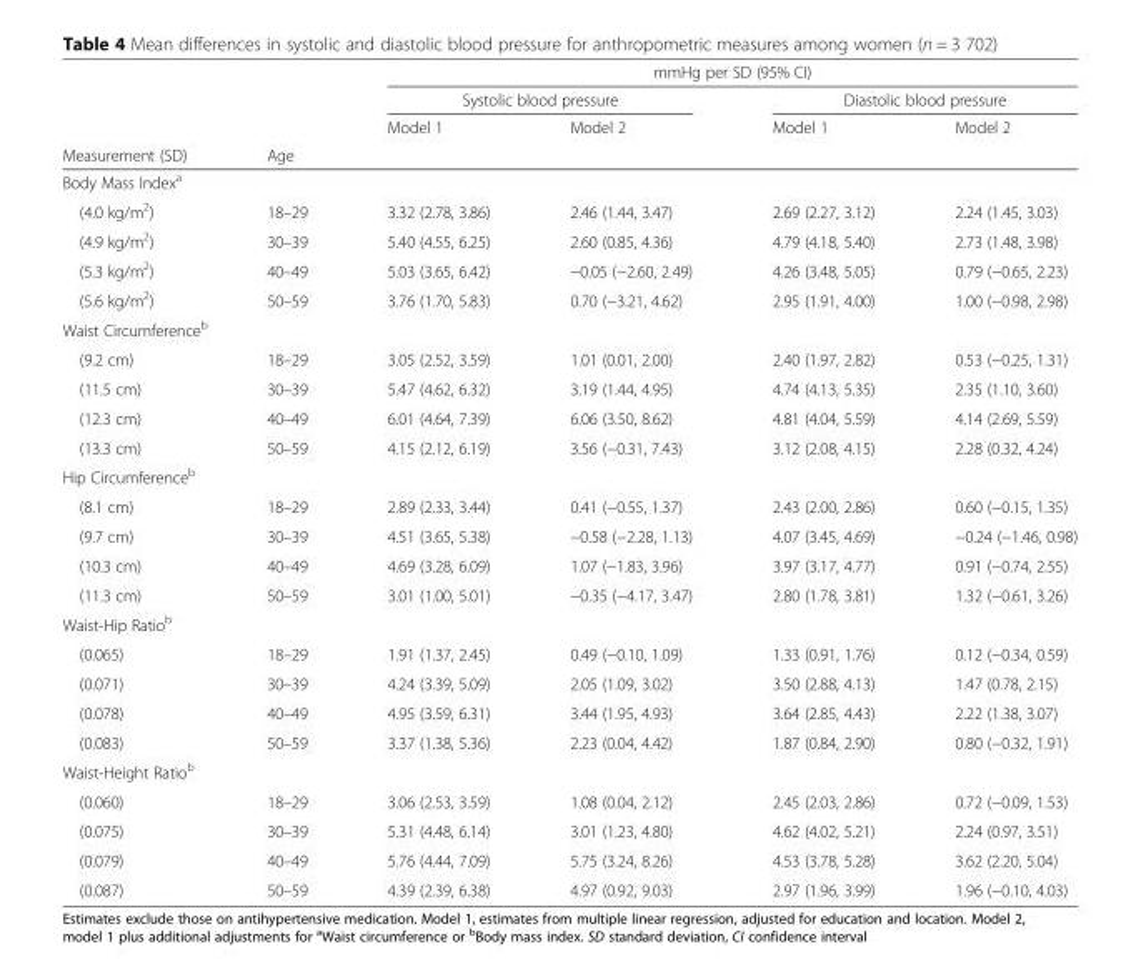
<table><thead><tr><td rowspan="4">Measurement (SD)</td><td rowspan="4">Age</td><td colspan="4">mmHg per SD (95% CI)</td></tr><tr><td colspan="2">Systolic blood pressure</td><td colspan="2">Diastolic blood pressure</td></tr><tr><td rowspan="2">Model 1</td><td rowspan="2">Model 2</td><td rowspan="2">Model 1</td><td rowspan="2">Model 2</td></tr><tr></tr></thead><tbody><tr><td colspan="6">Body Mass Index<sup>a</sup></td></tr><tr><td>(4.0 kg/m<sup>2</sup>)</td><td>18–29</td><td>3.32 (2.78, 3.86)</td><td>2.46 (1.44, 3.47)</td><td>2.69 (2.27, 3.12)</td><td>2.24 (1.45, 3.03)</td></tr><tr><td>(4.9 kg/m<sup>2</sup>)</td><td>30–39</td><td>5.40 (4.55, 6.25)</td><td>2.60 (0.85, 4.36)</td><td>4.79 (4.18, 5.40)</td><td>2.73 (1.48, 3.98)</td></tr><tr><td>(5.3 kg/m<sup>2</sup>)</td><td>40–49</td><td>5.03 (3.65, 6.42)</td><td>−0.05 (−2.60, 2.49)</td><td>4.26 (3.48, 5.05)</td><td>0.79 (−0.65, 2.23)</td></tr><tr><td>(5.6 kg/m<sup>2</sup>)</td><td>50–59</td><td>3.76 (1.70, 5.83)</td><td>0.70 (−3.21, 4.62)</td><td>2.95 (1.91, 4.00)</td><td>1.00 (−0.98, 2.98)</td></tr><tr><td colspan="6">Waist Circumference<sup>b</sup></td></tr><tr><td>(9.2 cm)</td><td>18–29</td><td>3.05 (2.52, 3.59)</td><td>1.01 (0.01, 2.00)</td><td>2.40 (1.97, 2.82)</td><td>0.53 (−0.25, 1.31)</td></tr><tr><td>(11.5 cm)</td><td>30–39</td><td>5.47 (4.62, 6.32)</td><td>3.19 (1.44, 4.95)</td><td>4.74 (4.13, 5.35)</td><td>2.35 (1.10, 3.60)</td></tr><tr><td>(12.3 cm)</td><td>40–49</td><td>6.01 (4.64, 7.39)</td><td>6.06 (3.50, 8.62)</td><td>4.81 (4.04, 5.59)</td><td>4.14 (2.69, 5.59)</td></tr><tr><td>(13.3 cm)</td><td>50–59</td><td>4.15 (2.12, 6.19)</td><td>3.56 (−0.31, 7.43)</td><td>3.12 (2.08, 4.15)</td><td>2.28 (0.32, 4.24)</td></tr><tr><td colspan="6">Hip Circumference<sup>b</sup></td></tr><tr><td>(8.1 cm)</td><td>18–29</td><td>2.89 (2.33, 3.44)</td><td>0.41 (−0.55, 1.37)</td><td>2.43 (2.00, 2.86)</td><td>0.60 (−0.15, 1.35)</td></tr><tr><td>(9.7 cm)</td><td>30–39</td><td>4.51 (3.65, 5.38)</td><td>−0.58 (−2.28, 1.13)</td><td>4.07 (3.45, 4.69)</td><td>−0.24 (−1.46, 0.98)</td></tr><tr><td>(10.3 cm)</td><td>40–49</td><td>4.69 (3.28, 6.09)</td><td>1.07 (−1.83, 3.96)</td><td>3.97 (3.17, 4.77)</td><td>0.91 (−0.74, 2.55)</td></tr><tr><td>(11.3 cm)</td><td>50–59</td><td>3.01 (1.00, 5.01)</td><td>−0.35 (−4.17, 3.47)</td><td>2.80 (1.78, 3.81)</td><td>1.32 (−0.61, 3.26)</td></tr><tr><td colspan="6">Waist-Hip Ratio<sup>b</sup></td></tr><tr><td>(0.065)</td><td>18–29</td><td>1.91 (1.37, 2.45)</td><td>0.49 (−0.10, 1.09)</td><td>1.33 (0.91, 1.76)</td><td>0.12 (−0.34, 0.59)</td></tr><tr><td>(0.071)</td><td>30–39</td><td>4.24 (3.39, 5.09)</td><td>2.05 (1.09, 3.02)</td><td>3.50 (2.88, 4.13)</td><td>1.47 (0.78, 2.15)</td></tr><tr><td>(0.078)</td><td>40–49</td><td>4.95 (3.59, 6.31)</td><td>3.44 (1.95, 4.93)</td><td>3.64 (2.85, 4.43)</td><td>2.22 (1.38, 3.07)</td></tr><tr><td>(0.083)</td><td>50–59</td><td>3.37 (1.38, 5.36)</td><td>2.23 (0.04, 4.42)</td><td>1.87 (0.84, 2.90)</td><td>0.80 (−0.32, 1.91)</td></tr><tr><td colspan="6">Waist-Height Ratio<sup>b</sup></td></tr><tr><td>(0.060)</td><td>18–29</td><td>3.06 (2.53, 3.59)</td><td>1.08 (0.04, 2.12)</td><td>2.45 (2.03, 2.86)</td><td>0.72 (−0.09, 1.53)</td></tr><tr><td>(0.075)</td><td>30–39</td><td>5.31 (4.48, 6.14)</td><td>3.01 (1.23, 4.80)</td><td>4.62 (4.02, 5.21)</td><td>2.24 (0.97, 3.51)</td></tr><tr><td>(0.079)</td><td>40–49</td><td>5.76 (4.44, 7.09)</td><td>5.75 (3.24, 8.26)</td><td>4.53 (3.78, 5.28)</td><td>3.62 (2.20, 5.04)</td></tr><tr><td>(0.087)</td><td>50–59</td><td>4.39 (2.39, 6.38)</td><td>4.97 (0.92, 9.03)</td><td>2.97 (1.96, 3.99)</td><td>1.96 (−0.10, 4.03)</td></tr></tbody></table>